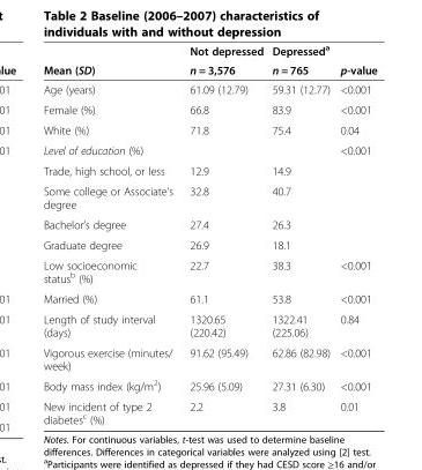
<table><thead><tr><td rowspan="2">Mean (SD)</td><td rowspan="2">Not depressed n = 3,576</td><td rowspan="2">Depressed<sup>a</sup> n = 765</td><td rowspan="2">p-value</td></tr><tr></tr></thead><tbody><tr><td>Age (years)</td><td>61.09 (12.79)</td><td>59.31 (12.77)</td><td>&lt;0.001</td></tr><tr><td>Female (%)</td><td>66.8</td><td>83.9</td><td>&lt;0.001</td></tr><tr><td>White (%)</td><td>71.8</td><td>75.4</td><td>0.04</td></tr><tr><td>Level of education (%)</td><td></td><td></td><td>&lt;0.001</td></tr><tr><td>Trade, high school, or less</td><td>12.9</td><td>14.9</td><td></td></tr><tr><td>Some college or Associate’s degree</td><td>32.8</td><td>40.7</td><td></td></tr><tr><td>Bachelor’s degree</td><td>27.4</td><td>26.3</td><td></td></tr><tr><td>Graduate degree</td><td>26.9</td><td>18.1</td><td></td></tr><tr><td>Low socioeconomic status<sup>b</sup> (%)</td><td>22.7</td><td>38.3</td><td>&lt;0.001</td></tr><tr><td>Married (%)</td><td>61.1</td><td>53.8</td><td>&lt;0.001</td></tr><tr><td>Length of study interval (days)</td><td>1320.65 (220.42)</td><td>1322.41 (225.06)</td><td>0.84</td></tr><tr><td>Vigorous exercise (minutes/ week)</td><td>91.62 (95.49)</td><td>62.86 (82.98)</td><td>&lt;0.001</td></tr><tr><td>Body mass index (kg/m<sup>2</sup>)</td><td>25.96 (5.09)</td><td>27.31 (6.30)</td><td>&lt;0.001</td></tr><tr><td>New incident of type 2 diabetes<sup>c</sup> (%)</td><td>2.2</td><td>3.8</td><td>0.01</td></tr></tbody></table>